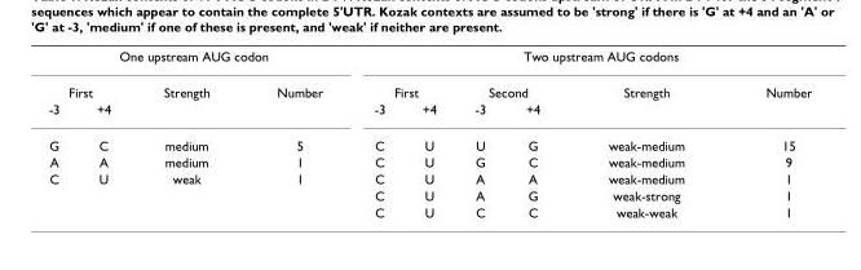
<table><tbody><tr><td colspan="4">One upstream AUG codon</td><td colspan="6">Two upstream AUG codons</td></tr><tr><td colspan="2">First</td><td>Strength</td><td>Number</td><td colspan="2">First</td><td colspan="2">Second</td><td>Strength</td><td>Number</td></tr><tr><td>-3</td><td>+4</td><td></td><td></td><td>-3</td><td>+4</td><td>-3</td><td>+4</td><td></td><td></td></tr><tr><td>G</td><td>C</td><td>medium</td><td>5</td><td>C</td><td>U</td><td>U</td><td>G</td><td>weak-medium</td><td>15</td></tr><tr><td>A</td><td>A</td><td>medium</td><td>1</td><td>C</td><td>U</td><td>G</td><td>C</td><td>weak-medium</td><td>9</td></tr><tr><td rowspan="3">C</td><td>U</td><td>weak</td><td>1</td><td>C</td><td>U</td><td>A</td><td>A</td><td>weak-medium</td><td>1</td></tr><tr><td></td><td></td><td></td><td>C</td><td>U</td><td>A</td><td>G</td><td>weak-strong</td><td>1</td></tr><tr><td></td><td></td><td></td><td>C</td><td>U</td><td>C</td><td>C</td><td>weak-weak</td><td>1</td></tr></tbody></table>